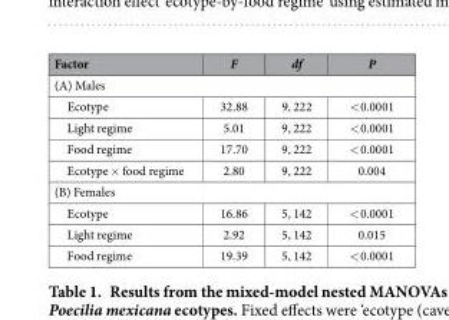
<table><thead><tr><td>Factor</td><td>F</td><td>df</td><td>P</td></tr></thead><tbody><tr><td colspan="4">(A) Males</td></tr><tr><td>Ecotype</td><td>32.88</td><td>9, 222</td><td>&lt; 0.0001</td></tr><tr><td>Light regime</td><td>5.01</td><td>9, 222</td><td>&lt; 0.0001</td></tr><tr><td>Food regime</td><td>17.70</td><td>9, 222</td><td>&lt; 0.0001</td></tr><tr><td>Ecotype × food regime</td><td>2.80</td><td>9, 222</td><td>0.004</td></tr><tr><td colspan="4">(B) Females</td></tr><tr><td>Ecotype</td><td>16.86</td><td>5, 142</td><td>&lt; 0.0001</td></tr><tr><td>Light regime</td><td>2.92</td><td>5, 142</td><td>0.015</td></tr><tr><td>Food regime</td><td>19.39</td><td>5, 142</td><td>&lt; 0.0001</td></tr></tbody></table>